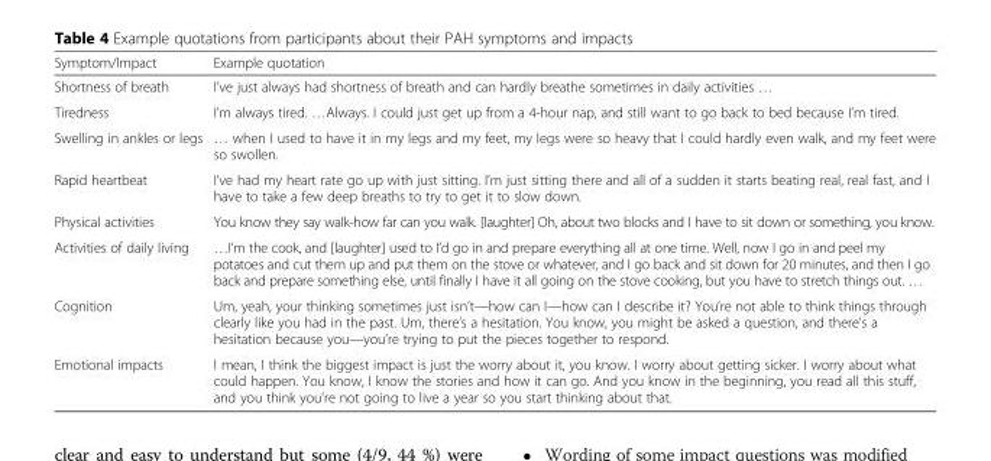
<table><thead><tr><td>Symptom/Impact</td><td>Example quotation</td></tr></thead><tbody><tr><td>Shortness of breath</td><td>I’ve just always had shortness of breath and can hardly breathe sometimes in daily activities …</td></tr><tr><td>Tiredness</td><td>I’m always tired. …Always. I could just get up from a 4-hour nap, and still want to go back to bed because I’m tired.</td></tr><tr><td>Swelling in ankles or legs</td><td>… when I used to have it in my legs and my feet, my legs were so heavy that I could hardly even walk, and my feet were so swollen.</td></tr><tr><td>Rapid heartbeat</td><td>I’ve had my heart rate go up with just sitting. I’m just sitting there and all of a sudden it starts beating real, real fast, and I have to take a few deep breaths to try to get it to slow down.</td></tr><tr><td>Physical activities</td><td>You know they say walk-how far can you walk. [laughter] Oh, about two blocks and I have to sit down or something, you know.</td></tr><tr><td>Activities of daily living</td><td>…I’m the cook, and [laughter] used to I’d go in and prepare everything all at one time. Well, now I go in and peel my potatoes and cut them up and put them on the stove or whatever, and I go back and sit down for 20 minutes, and then I go back and prepare something else, until finally I have it all going on the stove cooking, but you have to stretch things out. …</td></tr><tr><td>Cognition</td><td>Um, yeah, your thinking sometimes just isn’t—how can I—how can I describe it? You’re not able to think things through clearly like you had in the past. Um, there’s a hesitation. You know, you might be asked a question, and there’s a hesitation because you—you’re trying to put the pieces together to respond.</td></tr><tr><td>Emotional impacts</td><td>I mean, I think the biggest impact is just the worry about it, you know. I worry about getting sicker. I worry about what could happen. You know, I know the stories and how it can go. And you know in the beginning, you read all this stuff, and you think you’re not going to live a year so you start thinking about that.</td></tr></tbody></table>